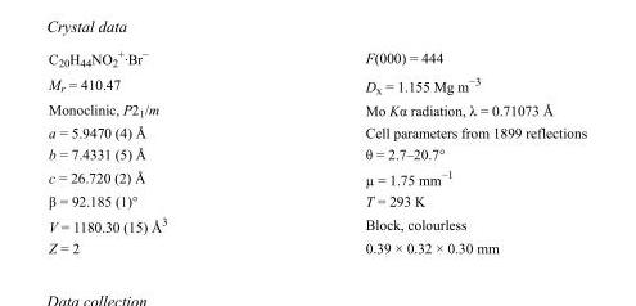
<table><tbody><tr><td>C<sub>20</sub>H<sub>44</sub>NO<sub>2</sub> <sup>+</sup>·Br<sup>−</sup></td><td>F(000) = 444</td></tr><tr><td>M<sub>r</sub> = 410.47</td><td>D<sub>x</sub> = 1.155 Mg m<sup>−3</sup></td></tr><tr><td>Monoclinic, P2<sub>1</sub>/m</td><td>Mo Kα radiation, λ = 0.71073 Å</td></tr><tr><td>a = 5.9470 (4) Å</td><td>Cell parameters from 1899 reflections</td></tr><tr><td>b = 7.4331 (5) Å</td><td>θ = 2.7–20.7°</td></tr><tr><td>c = 26.720 (2) Å</td><td>µ = 1.75 mm<sup>−1</sup></td></tr><tr><td>β = 92.185 (1)°</td><td>T = 293 K</td></tr><tr><td>V = 1180.30 (15) Å<sup>3</sup></td><td>Block, colourless</td></tr><tr><td>Z = 2</td><td>0.39 × 0.32 × 0.30 mm</td></tr></tbody></table>